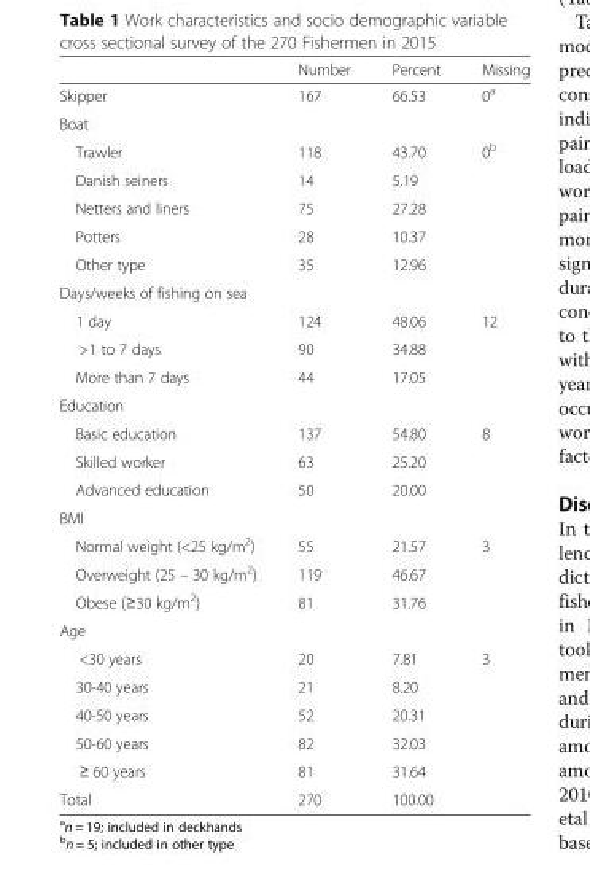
<table><thead><tr><td></td><td>Number</td><td>Percent</td><td>Missing</td></tr></thead><tbody><tr><td>Skipper</td><td>167</td><td>66.53</td><td>0<sup>a</sup></td></tr><tr><td colspan="4">Boat</td></tr><tr><td>Trawler</td><td>118</td><td>43.70</td><td>0<sup>b</sup></td></tr><tr><td>Danish seiners</td><td>14</td><td>5.19</td><td></td></tr><tr><td>Netters and liners</td><td>75</td><td>27.28</td><td></td></tr><tr><td>Potters</td><td>28</td><td>10.37</td><td></td></tr><tr><td>Other type</td><td>35</td><td>12.96</td><td></td></tr><tr><td colspan="4">Days/weeks of fishing on sea</td></tr><tr><td>1 day</td><td>124</td><td>48.06</td><td>12</td></tr><tr><td>&gt;1 to 7 days</td><td>90</td><td>34.88</td><td></td></tr><tr><td>More than 7 days</td><td>44</td><td>17.05</td><td></td></tr><tr><td colspan="4">Education</td></tr><tr><td>Basic education</td><td>137</td><td>54.80</td><td>8</td></tr><tr><td>Skilled worker</td><td>63</td><td>25.20</td><td></td></tr><tr><td>Advanced education</td><td>50</td><td>20.00</td><td></td></tr><tr><td colspan="4">BMI</td></tr><tr><td>Normal weight (&lt;25 kg/m<sup>2</sup>)</td><td>55</td><td>21.57</td><td>3</td></tr><tr><td>Overweight (25 – 30 kg/m<sup>2</sup>)</td><td>119</td><td>46.67</td><td></td></tr><tr><td>Obese (≥30 kg/m<sup>2</sup>)</td><td>81</td><td>31.76</td><td></td></tr><tr><td colspan="4">Age</td></tr><tr><td>&lt;30 years</td><td>20</td><td>7.81</td><td>3</td></tr><tr><td>30-40 years</td><td>21</td><td>8.20</td><td></td></tr><tr><td>40-50 years</td><td>52</td><td>20.31</td><td></td></tr><tr><td>50-60 years</td><td>82</td><td>32.03</td><td></td></tr><tr><td>≥ 60 years</td><td>81</td><td>31.64</td><td></td></tr><tr><td>Total</td><td>270</td><td>100.00</td><td></td></tr></tbody></table>